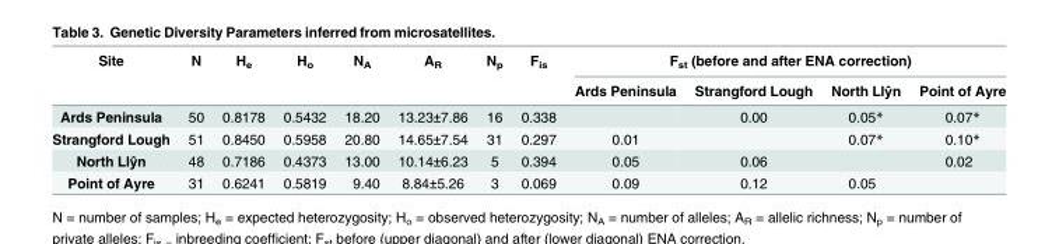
<table><thead><tr><td rowspan="2">Site</td><td rowspan="2">N</td><td rowspan="2">H<sub>e</sub></td><td rowspan="2">H<sub>o</sub></td><td rowspan="2">N<sub>A</sub></td><td rowspan="2">A<sub>R</sub></td><td rowspan="2">N<sub>p</sub></td><td rowspan="2">F<sub>is</sub></td><td colspan="4">F<sub>st</sub> (before and after ENA correction)</td></tr><tr><td>Ards Peninsula</td><td>Strangford Lough</td><td>North Llŷn</td><td>Point of Ayre</td></tr></thead><tbody><tr><td>Ards Peninsula</td><td>50</td><td>0.8178</td><td>0.5432</td><td>18.20</td><td>13.23±7.86</td><td>16</td><td>0.338</td><td></td><td>0.00</td><td>0.05*</td><td>0.07*</td></tr><tr><td>Strangford Lough</td><td>51</td><td>0.8450</td><td>0.5958</td><td>20.80</td><td>14.65±7.54</td><td>31</td><td>0.297</td><td>0.01</td><td></td><td>0.07*</td><td>0.10*</td></tr><tr><td>North Llŷn</td><td>48</td><td>0.7186</td><td>0.4373</td><td>13.00</td><td>10.14±6.23</td><td>5</td><td>0.394</td><td>0.05</td><td>0.06</td><td></td><td>0.02</td></tr><tr><td>Point of Ayre</td><td>31</td><td>0.6241</td><td>0.5819</td><td>9.40</td><td>8.84±5.26</td><td>3</td><td>0.069</td><td>0.09</td><td>0.12</td><td>0.05</td><td></td></tr></tbody></table>